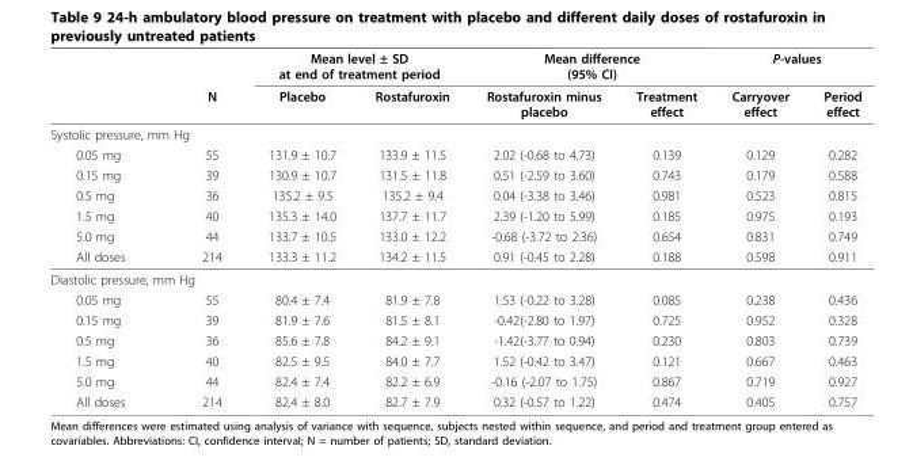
<table><thead><tr><td rowspan="2"></td><td rowspan="2">N</td><td colspan="2">Mean level ± SD at end of treatment period</td><td colspan="2">Mean difference (95% CI)</td><td colspan="2">P-values</td></tr><tr><td>Placebo</td><td>Rostafuroxin</td><td>Rostafuroxin minus placebo</td><td>Treatment effect</td><td>Carryover effect</td><td>Period effect</td></tr></thead><tbody><tr><td colspan="8">Systolic pressure, mm Hg</td></tr><tr><td>0.05 mg</td><td>55</td><td>131.9 ± 10.7</td><td>133.9 ± 11.5</td><td>2.02 (-0.68 to 4.73)</td><td>0.139</td><td>0.129</td><td>0.282</td></tr><tr><td>0.15 mg</td><td>39</td><td>130.9 ± 10.7</td><td>131.5 ± 11.8</td><td>0.51 (-2.59 to 3.60)</td><td>0.743</td><td>0.179</td><td>0.588</td></tr><tr><td>0.5 mg</td><td>36</td><td>135.2 ± 9.5</td><td>135.2 ± 9.4</td><td>0.04 (-3.38 to 3.46)</td><td>0.981</td><td>0.523</td><td>0.815</td></tr><tr><td>1.5 mg</td><td>40</td><td>135.3 ± 14.0</td><td>137.7 ± 11.7</td><td>2.39 (-1.20 to 5.99)</td><td>0.185</td><td>0.975</td><td>0.193</td></tr><tr><td>5.0 mg</td><td>44</td><td>133.7 ± 10.5</td><td>133.0 ± 12.2</td><td>-0.68 (-3.72 to 2.36)</td><td>0.654</td><td>0.831</td><td>0.749</td></tr><tr><td>All doses</td><td>214</td><td>133.3 ± 11.2</td><td>134.2 ± 11.5</td><td>0.91 (-0.45 to 2.28)</td><td>0.188</td><td>0.598</td><td>0.911</td></tr><tr><td colspan="8">Diastolic pressure, mm Hg</td></tr><tr><td>0.05 mg</td><td>55</td><td>80.4 ± 7.4</td><td>81.9 ± 7.8</td><td>1.53 (-0.22 to 3.28)</td><td>0.085</td><td>0.238</td><td>0.436</td></tr><tr><td>0.15 mg</td><td>39</td><td>81.9 ± 7.6</td><td>81.5 ± 8.1</td><td>-0.42(-2.80 to 1.97)</td><td>0.725</td><td>0.952</td><td>0.328</td></tr><tr><td>0.5 mg</td><td>36</td><td>85.6 ± 7.8</td><td>84.2 ± 9.1</td><td>-1.42(-3.77 to 0.94)</td><td>0.230</td><td>0.803</td><td>0.739</td></tr><tr><td>1.5 mg</td><td>40</td><td>82.5 ± 9.5</td><td>84.0 ± 7.7</td><td>1.52 (-0.42 to 3.47)</td><td>0.121</td><td>0.667</td><td>0.463</td></tr><tr><td>5.0 mg</td><td>44</td><td>82.4 ± 7.4</td><td>82.2 ± 6.9</td><td>-0.16 (-2.07 to 1.75)</td><td>0.867</td><td>0.719</td><td>0.927</td></tr><tr><td>All doses</td><td>214</td><td>82.4 ± 8.0</td><td>82.7 ± 7.9</td><td>0.32 (-0.57 to 1.22)</td><td>0.474</td><td>0.405</td><td>0.757</td></tr></tbody></table>